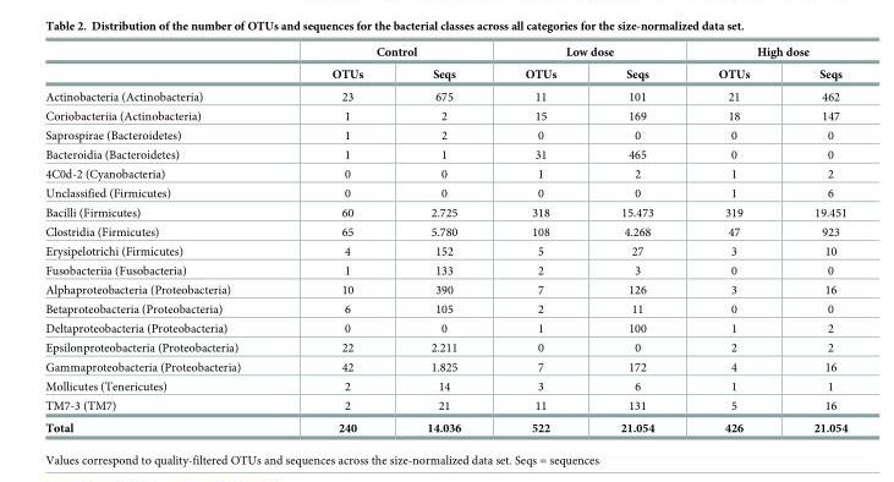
<table><thead><tr><td rowspan="2"></td><td colspan="2">Control</td><td colspan="2">Low dose</td><td colspan="2">High dose</td></tr><tr><td>OTUs</td><td>Seqs</td><td>OTUs</td><td>Seqs</td><td>OTUs</td><td>Seqs</td></tr></thead><tbody><tr><td>Actinobacteria (Actinobacteria)</td><td>23</td><td>675</td><td>11</td><td>101</td><td>21</td><td>462</td></tr><tr><td>Coriobacteriia (Actinobacteria)</td><td>1</td><td>2</td><td>15</td><td>169</td><td>18</td><td>147</td></tr><tr><td>Saprospirae (Bacteroidetes)</td><td>1</td><td>2</td><td>0</td><td>0</td><td>0</td><td>0</td></tr><tr><td>Bacteroidia (Bacteroidetes)</td><td>1</td><td>1</td><td>31</td><td>465</td><td>0</td><td>0</td></tr><tr><td>4C0d-2 (Cyanobacteria)</td><td>0</td><td>0</td><td>1</td><td>2</td><td>1</td><td>2</td></tr><tr><td>Unclassified (Firmicutes)</td><td>0</td><td>0</td><td>0</td><td>0</td><td>1</td><td>6</td></tr><tr><td>Bacilli (Firmicutes)</td><td>60</td><td>2.725</td><td>318</td><td>15.473</td><td>319</td><td>19.451</td></tr><tr><td>Clostridia (Firmicutes)</td><td>65</td><td>5.780</td><td>108</td><td>4.268</td><td>47</td><td>923</td></tr><tr><td>Erysipelotrichi (Firmicutes)</td><td>4</td><td>152</td><td>5</td><td>27</td><td>3</td><td>10</td></tr><tr><td>Fusobacteriia (Fusobacteria)</td><td>1</td><td>133</td><td>2</td><td>3</td><td>0</td><td>0</td></tr><tr><td>Alphaproteobacteria (Proteobacteria)</td><td>10</td><td>390</td><td>7</td><td>126</td><td>3</td><td>16</td></tr><tr><td>Betaproteobacteria (Proteobacteria)</td><td>6</td><td>105</td><td>2</td><td>11</td><td>0</td><td>0</td></tr><tr><td>Deltaproteobacteria (Proteobacteria)</td><td>0</td><td>0</td><td>1</td><td>100</td><td>1</td><td>2</td></tr><tr><td>Epsilonproteobacteria (Proteobacteria)</td><td>22</td><td>2.211</td><td>0</td><td>0</td><td>2</td><td>2</td></tr><tr><td>Gammaproteobacteria (Proteobacteria)</td><td>42</td><td>1.825</td><td>7</td><td>172</td><td>4</td><td>16</td></tr><tr><td>Mollicutes (Tenericutes)</td><td>2</td><td>14</td><td>3</td><td>6</td><td>1</td><td>1</td></tr><tr><td>TM7-3 (TM7)</td><td>2</td><td>21</td><td>11</td><td>131</td><td>5</td><td>16</td></tr><tr><td>Total</td><td>240</td><td>14.036</td><td>522</td><td>21.054</td><td>426</td><td>21.054</td></tr></tbody></table>